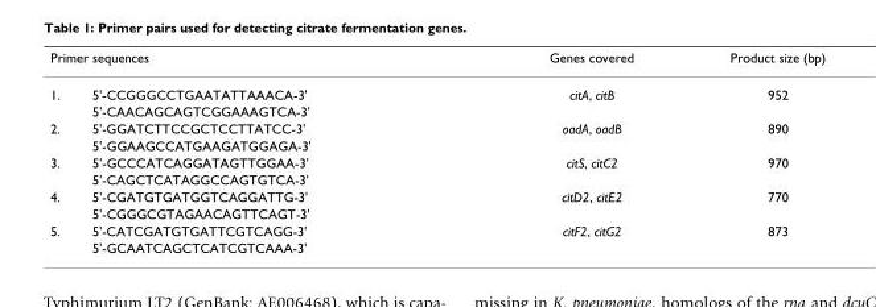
<table><thead><tr><td colspan="2">Primer sequences</td><td rowspan="2">Genes covered citA, citB</td><td rowspan="2">Product size (bp) 952</td></tr><tr><td>1.</td><td>5&#x27;-CCGGGCCTGAATATTAAACA-3&#x27;</td></tr></thead><tbody><tr><td></td><td>5&#x27;-CAACAGCAGTCGGAAAGTCA-3&#x27;</td><td></td><td></td></tr><tr><td rowspan="2">2.</td><td>5&#x27;-GGATCTTCCGCTCCTTATCC-3&#x27;</td><td>oadA, oadB</td><td>890</td></tr><tr><td>5&#x27;-GGAAGCCATGAAGATGGAGA-3&#x27;</td><td></td><td></td></tr><tr><td rowspan="2">3.</td><td>5&#x27;-GCCCATCAGGATAGTTGGAA-3&#x27;</td><td>citS, citC2</td><td>970</td></tr><tr><td>5&#x27;-CAGCTCATAGGCCAGTGTCA-3&#x27;</td><td></td><td></td></tr><tr><td rowspan="2">4.</td><td>5&#x27;-CGATGTGATGGTCAGGATTG-3&#x27;</td><td>citD2, citE2</td><td>770</td></tr><tr><td>5&#x27;-CGGGCGTAGAACAGTTCAGT-3&#x27;</td><td></td><td></td></tr><tr><td rowspan="2">5.</td><td>5&#x27;-CATCGATGTGATTCGTCAGG-3&#x27;</td><td>citF2, citG2</td><td>873</td></tr><tr><td>5&#x27;-GCAATCAGCTCATCGTCAAA-3&#x27;</td><td></td><td></td></tr></tbody></table>